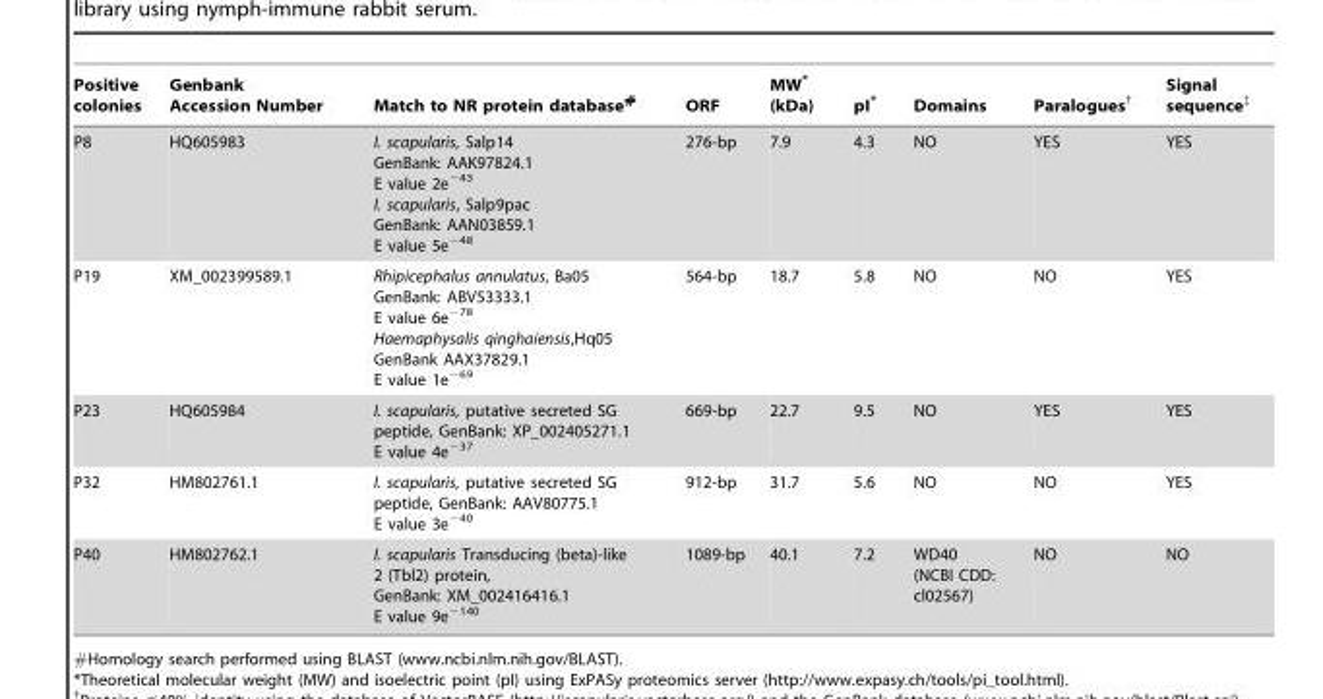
<table><thead><tr><td>Positive colonies</td><td>Genbank Accession Number</td><td>Match to NR protein database#</td><td>ORF</td><td>MW* (kDa)</td><td>pI*</td><td>Domains</td><td>Paralogues†</td><td>Signal sequence‡</td></tr></thead><tbody><tr><td>P8</td><td>HQ605983</td><td>I. scapularis, Salp14 GenBank: AAK97824.1 E value 2e<sup>−43</sup> I. scapularis, Salp9pac GenBank: AAN03859.1 E value 5e<sup>−48</sup></td><td>276-bp</td><td>7.9</td><td>4.3</td><td>NO</td><td>YES</td><td>YES</td></tr><tr><td>P19</td><td>XM_002399589.1</td><td>Rhipicephalus annulatus, Ba05 GenBank: ABV53333.1 E value 6e<sup>−78</sup> Haemaphysalis qinghaiensis,Hq05 GenBank AAX37829.1 E value 1e<sup>−69</sup></td><td>564-bp</td><td>18.7</td><td>5.8</td><td>NO</td><td>NO</td><td>YES</td></tr><tr><td>P23</td><td>HQ605984</td><td>I. scapularis, putative secreted SG peptide, GenBank: XP_002405271.1 E value 4e<sup>−37</sup></td><td>669-bp</td><td>22.7</td><td>9.5</td><td>NO</td><td>YES</td><td>YES</td></tr><tr><td>P32</td><td>HM802761.1</td><td>I. scapularis, putative secreted SG peptide, GenBank: AAV80775.1 E value 3e<sup>−40</sup></td><td>912-bp</td><td>31.7</td><td>5.6</td><td>NO</td><td>NO</td><td>YES</td></tr><tr><td>P40</td><td>HM802762.1</td><td>I. scapularis Transducing (beta)-like 2 (Tbl2) protein, GenBank: XM_002416416.1 E value 9e<sup>−140</sup></td><td>1089-bp</td><td>40.1</td><td>7.2</td><td>WD40 (NCBI CDD: cl02567)</td><td>NO</td><td>NO</td></tr></tbody></table>